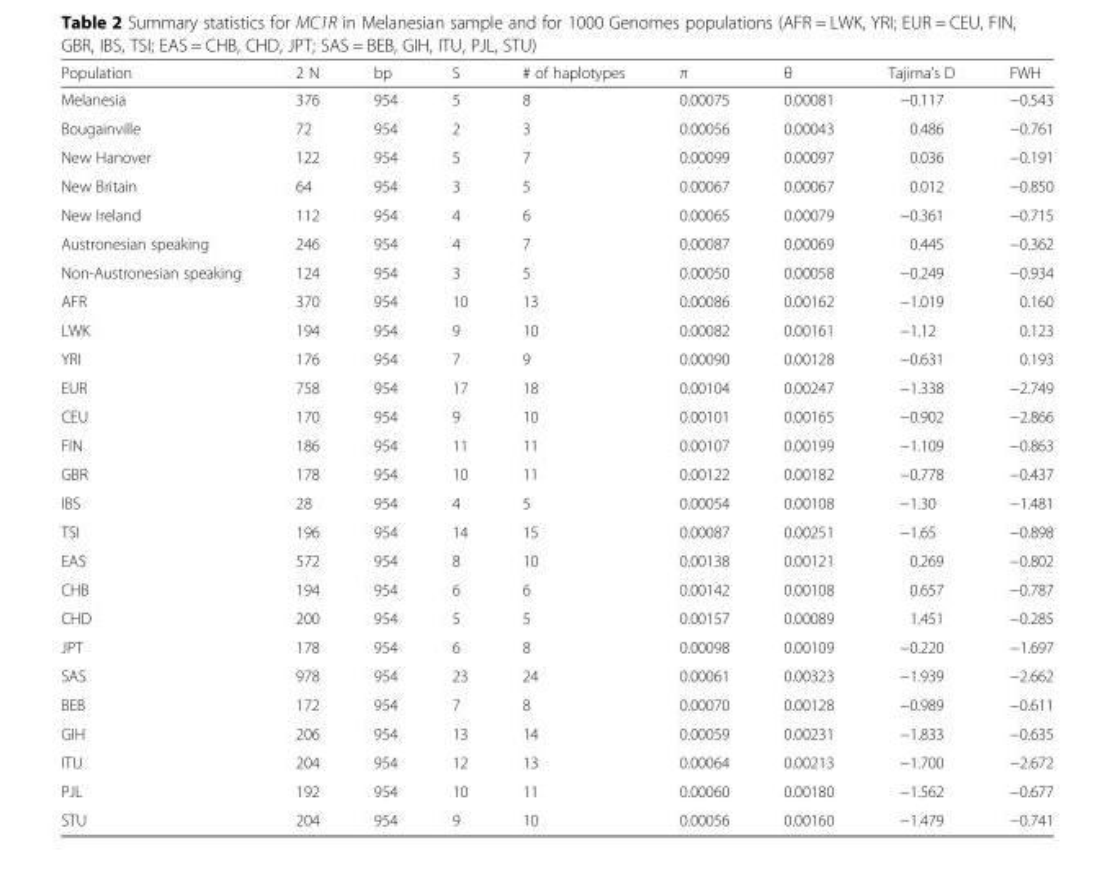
<table><thead><tr><td>Population</td><td>2 N</td><td>bp</td><td>S</td><td># of haplotypes</td><td>π</td><td>θ</td><td>Tajima’s D</td><td>FWH</td></tr></thead><tbody><tr><td>Melanesia</td><td>376</td><td>954</td><td>5</td><td>8</td><td>0.00075</td><td>0.00081</td><td>−0.117</td><td>−0.543</td></tr><tr><td>Bougainville</td><td>72</td><td>954</td><td>2</td><td>3</td><td>0.00056</td><td>0.00043</td><td>0.486</td><td>−0.761</td></tr><tr><td>New Hanover</td><td>122</td><td>954</td><td>5</td><td>7</td><td>0.00099</td><td>0.00097</td><td>0.036</td><td>−0.191</td></tr><tr><td>New Britain</td><td>64</td><td>954</td><td>3</td><td>5</td><td>0.00067</td><td>0.00067</td><td>0.012</td><td>−0.850</td></tr><tr><td>New Ireland</td><td>112</td><td>954</td><td>4</td><td>6</td><td>0.00065</td><td>0.00079</td><td>−0.361</td><td>−0.715</td></tr><tr><td>Austronesian speaking</td><td>246</td><td>954</td><td>4</td><td>7</td><td>0.00087</td><td>0.00069</td><td>0.445</td><td>−0.362</td></tr><tr><td>Non-Austronesian speaking</td><td>124</td><td>954</td><td>3</td><td>5</td><td>0.00050</td><td>0.00058</td><td>−0.249</td><td>−0.934</td></tr><tr><td>AFR</td><td>370</td><td>954</td><td>10</td><td>13</td><td>0.00086</td><td>0.00162</td><td>−1.019</td><td>0.160</td></tr><tr><td>LWK</td><td>194</td><td>954</td><td>9</td><td>10</td><td>0.00082</td><td>0.00161</td><td>−1.12</td><td>0.123</td></tr><tr><td>YRI</td><td>176</td><td>954</td><td>7</td><td>9</td><td>0.00090</td><td>0.00128</td><td>−0.631</td><td>0.193</td></tr><tr><td>EUR</td><td>758</td><td>954</td><td>17</td><td>18</td><td>0.00104</td><td>0.00247</td><td>−1.338</td><td>−2.749</td></tr><tr><td>CEU</td><td>170</td><td>954</td><td>9</td><td>10</td><td>0.00101</td><td>0.00165</td><td>−0.902</td><td>−2.866</td></tr><tr><td>FIN</td><td>186</td><td>954</td><td>11</td><td>11</td><td>0.00107</td><td>0.00199</td><td>−1.109</td><td>−0.863</td></tr><tr><td>GBR</td><td>178</td><td>954</td><td>10</td><td>11</td><td>0.00122</td><td>0.00182</td><td>−0.778</td><td>−0.437</td></tr><tr><td>IBS</td><td>28</td><td>954</td><td>4</td><td>5</td><td>0.00054</td><td>0.00108</td><td>−1.30</td><td>−1.481</td></tr><tr><td>TSI</td><td>196</td><td>954</td><td>14</td><td>15</td><td>0.00087</td><td>0.00251</td><td>−1.65</td><td>−0.898</td></tr><tr><td>EAS</td><td>572</td><td>954</td><td>8</td><td>10</td><td>0.00138</td><td>0.00121</td><td>0.269</td><td>−0.802</td></tr><tr><td>CHB</td><td>194</td><td>954</td><td>6</td><td>6</td><td>0.00142</td><td>0.00108</td><td>0.657</td><td>−0.787</td></tr><tr><td>CHD</td><td>200</td><td>954</td><td>5</td><td>5</td><td>0.00157</td><td>0.00089</td><td>1.451</td><td>−0.285</td></tr><tr><td>JPT</td><td>178</td><td>954</td><td>6</td><td>8</td><td>0.00098</td><td>0.00109</td><td>−0.220</td><td>−1.697</td></tr><tr><td>SAS</td><td>978</td><td>954</td><td>23</td><td>24</td><td>0.00061</td><td>0.00323</td><td>−1.939</td><td>−2.662</td></tr><tr><td>BEB</td><td>172</td><td>954</td><td>7</td><td>8</td><td>0.00070</td><td>0.00128</td><td>−0.989</td><td>−0.611</td></tr><tr><td>GIH</td><td>206</td><td>954</td><td>13</td><td>14</td><td>0.00059</td><td>0.00231</td><td>−1.833</td><td>−0.635</td></tr><tr><td>ITU</td><td>204</td><td>954</td><td>12</td><td>13</td><td>0.00064</td><td>0.00213</td><td>−1.700</td><td>−2.672</td></tr><tr><td>PJL</td><td>192</td><td>954</td><td>10</td><td>11</td><td>0.00060</td><td>0.00180</td><td>−1.562</td><td>−0.677</td></tr><tr><td>STU</td><td>204</td><td>954</td><td>9</td><td>10</td><td>0.00056</td><td>0.00160</td><td>−1.479</td><td>−0.741</td></tr></tbody></table>